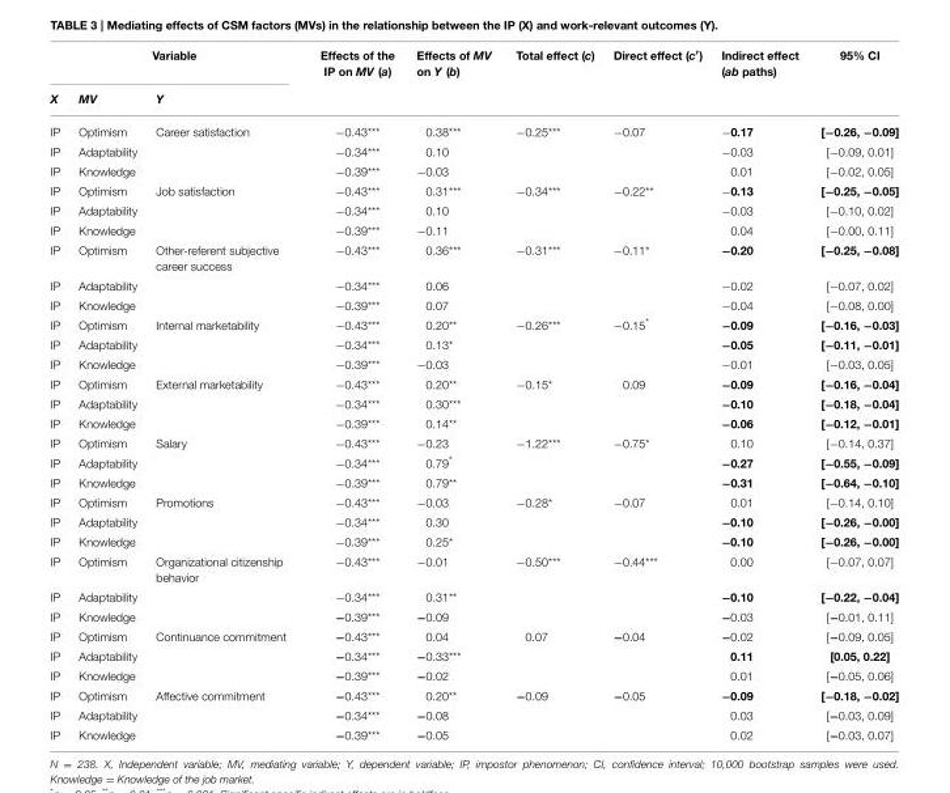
<table><thead><tr><td colspan="3">Variable</td><td rowspan="2">Effects of the IP on MV (a)</td><td rowspan="2">Effects of MV on Y (b)</td><td rowspan="2">Total effect (c)</td><td rowspan="2">Direct effect (c′)</td><td rowspan="2">Indirect effect (ab paths)</td><td rowspan="2">95% CI</td></tr><tr><td>X</td><td>MV</td><td>Y</td></tr></thead><tbody><tr><td>IP</td><td>Optimism</td><td>Career satisfaction</td><td>−0.43***</td><td>0.38***</td><td>−0.25***</td><td>−0.07</td><td>−0.17</td><td>[−0.26, −0.09]</td></tr><tr><td>IP</td><td>Adaptability</td><td></td><td>−0.34***</td><td>0.10</td><td></td><td></td><td>−0.03</td><td>[−0.09, 0.01]</td></tr><tr><td>IP</td><td>Knowledge</td><td></td><td>−0.39***</td><td>−0.03</td><td></td><td></td><td>0.01</td><td>[−0.02, 0.05]</td></tr><tr><td>IP</td><td>Optimism</td><td>Job satisfaction</td><td>−0.43***</td><td>0.31***</td><td>−0.34***</td><td>−0.22**</td><td>−0.13</td><td>[−0.25, −0.05]</td></tr><tr><td>IP</td><td>Adaptability</td><td></td><td>−0.34***</td><td>0.10</td><td></td><td></td><td>−0.03</td><td>[−0.10, 0.02]</td></tr><tr><td>IP</td><td>Knowledge</td><td></td><td>−0.39***</td><td>−0.11</td><td></td><td></td><td>0.04</td><td>[−0.00, 0.11]</td></tr><tr><td>IP</td><td>Optimism</td><td>Other-referent subjective career success</td><td>−0.43***</td><td>0.36***</td><td>−0.31***</td><td>−0.11*</td><td>−0.20</td><td>[−0.25, −0.08]</td></tr><tr><td>IP</td><td>Adaptability</td><td></td><td>−0.34***</td><td>0.06</td><td></td><td></td><td>−0.02</td><td>[−0.07, 0.02]</td></tr><tr><td>IP</td><td>Knowledge</td><td></td><td>−0.39***</td><td>0.07</td><td></td><td></td><td>−0.04</td><td>[−0.08, 0.00]</td></tr><tr><td>IP</td><td>Optimism</td><td>Internal marketability</td><td>−0.43***</td><td>0.20**</td><td>−0.26***</td><td>−0.15*</td><td>−0.09</td><td>[−0.16, −0.03]</td></tr><tr><td>IP</td><td>Adaptability</td><td></td><td>−0.34***</td><td>0.13*</td><td></td><td></td><td>−0.05</td><td>[−0.11, −0.01]</td></tr><tr><td>IP</td><td>Knowledge</td><td></td><td>−0.39***</td><td>−0.03</td><td></td><td></td><td>−0.01</td><td>[−0.03, 0.05]</td></tr><tr><td>IP</td><td>Optimism</td><td>External marketability</td><td>−0.43***</td><td>0.20**</td><td>−0.15*</td><td>0.09</td><td>−0.09</td><td>[−0.16, −0.04]</td></tr><tr><td>IP</td><td>Adaptability</td><td></td><td>−0.34***</td><td>0.30***</td><td></td><td></td><td>−0.10</td><td>[−0.18, −0.04]</td></tr><tr><td>IP</td><td>Knowledge</td><td></td><td>−0.39***</td><td>0.14**</td><td></td><td></td><td>−0.06</td><td>[−0.12, −0.01]</td></tr><tr><td>IP</td><td>Optimism</td><td>Salary</td><td>−0.43***</td><td>−0.23</td><td>−1.22***</td><td>−0.75*</td><td>0.10</td><td>[−0.14, 0.37]</td></tr><tr><td>IP</td><td>Adaptability</td><td></td><td>−0.34***</td><td>0.79*</td><td></td><td></td><td>−0.27</td><td>[−0.55, −0.09]</td></tr><tr><td>IP</td><td>Knowledge</td><td></td><td>−0.39***</td><td>0.79**</td><td></td><td></td><td>−0.31</td><td>[−0.64, −0.10]</td></tr><tr><td>IP</td><td>Optimism</td><td>Promotions</td><td>−0.43***</td><td>−0.03</td><td>−0.28*</td><td>−0.07</td><td>0.01</td><td>[−0.14, 0.10]</td></tr><tr><td>IP</td><td>Adaptability</td><td></td><td>−0.34***</td><td>0.30</td><td></td><td></td><td>−0.10</td><td>[−0.26, −0.00]</td></tr><tr><td>IP</td><td>Knowledge</td><td></td><td>−0.39***</td><td>0.25*</td><td></td><td></td><td>−0.10</td><td>[−0.26, −0.00]</td></tr><tr><td>IP</td><td>Optimism</td><td>Organizational citizenship behavior</td><td>−0.43***</td><td>−0.01</td><td>−0.50***</td><td>−0.44***</td><td>0.00</td><td>[−0.07, 0.07]</td></tr><tr><td>IP</td><td>Adaptability</td><td></td><td>−0.34***</td><td>0.31**</td><td></td><td></td><td>−0.10</td><td>[−0.22, −0.04]</td></tr><tr><td>IP</td><td>Knowledge</td><td></td><td>−0.39***</td><td>−0.09</td><td></td><td></td><td>−0.03</td><td>[−0.01, 0.11]</td></tr><tr><td>IP</td><td>Optimism</td><td>Continuance commitment</td><td>−0.43***</td><td>0.04</td><td>0.07</td><td>−0.04</td><td>−0.02</td><td>[−0.09, 0.05]</td></tr><tr><td>IP</td><td>Adaptability</td><td></td><td>−0.34***</td><td>−0.33***</td><td></td><td></td><td>0.11</td><td>[0.05, 0.22]</td></tr><tr><td>IP</td><td>Knowledge</td><td></td><td>−0.39***</td><td>−0.02</td><td></td><td></td><td>0.01</td><td>[−0.05, 0.06]</td></tr><tr><td>IP</td><td>Optimism</td><td>Affective commitment</td><td>−0.43***</td><td>0.20**</td><td>−0.09</td><td>−0.05</td><td>−0.09</td><td>[−0.18, −0.02]</td></tr><tr><td>IP</td><td>Adaptability</td><td></td><td>−0.34***</td><td>−0.08</td><td></td><td></td><td>0.03</td><td>[−0.03, 0.09]</td></tr><tr><td>IP</td><td>Knowledge</td><td></td><td>−0.39***</td><td>−0.05</td><td></td><td></td><td>0.02</td><td>[−0.03, 0.07]</td></tr></tbody></table>